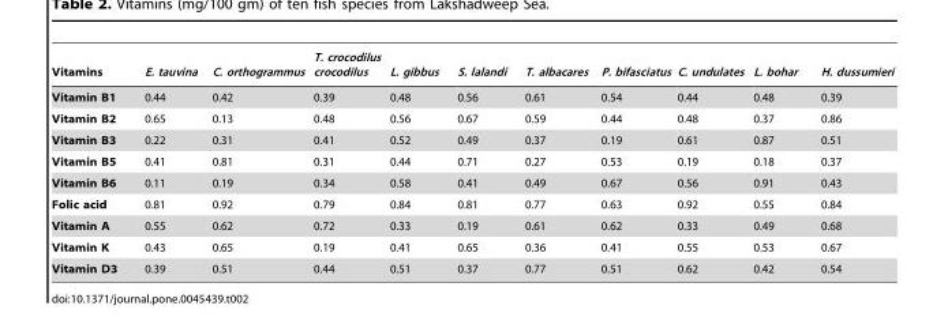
<table><thead><tr><td>Vitamins</td><td>E. tauvina</td><td>C. orthogrammus</td><td>T. crocodilus crocodilus</td><td>L. gibbus</td><td>S. lalandi</td><td>T. albacares</td><td>P. bifasciatus</td><td>C. undulates</td><td>L. bohar</td><td>H. dussumieri</td></tr></thead><tbody><tr><td>Vitamin B1</td><td>0.44</td><td>0.42</td><td>0.39</td><td>0.48</td><td>0.56</td><td>0.61</td><td>0.54</td><td>0.44</td><td>0.48</td><td>0.39</td></tr><tr><td>Vitamin B2</td><td>0.65</td><td>0.13</td><td>0.48</td><td>0.56</td><td>0.67</td><td>0.59</td><td>0.44</td><td>0.48</td><td>0.37</td><td>0.86</td></tr><tr><td>Vitamin B3</td><td>0.22</td><td>0.31</td><td>0.41</td><td>0.52</td><td>0.49</td><td>0.37</td><td>0.19</td><td>0.61</td><td>0.87</td><td>0.51</td></tr><tr><td>Vitamin B5</td><td>0.41</td><td>0.81</td><td>0.31</td><td>0.44</td><td>0.71</td><td>0.27</td><td>0.53</td><td>0.19</td><td>0.18</td><td>0.37</td></tr><tr><td>Vitamin B6</td><td>0.11</td><td>0.19</td><td>0.34</td><td>0.58</td><td>0.41</td><td>0.49</td><td>0.67</td><td>0.56</td><td>0.91</td><td>0.43</td></tr><tr><td>Folic acid</td><td>0.81</td><td>0.92</td><td>0.79</td><td>0.84</td><td>0.81</td><td>0.77</td><td>0.63</td><td>0.92</td><td>0.55</td><td>0.84</td></tr><tr><td>Vitamin A</td><td>0.55</td><td>0.62</td><td>0.72</td><td>0.33</td><td>0.19</td><td>0.61</td><td>0.62</td><td>0.33</td><td>0.49</td><td>0.68</td></tr><tr><td>Vitamin K</td><td>0.43</td><td>0.65</td><td>0.19</td><td>0.41</td><td>0.65</td><td>0.36</td><td>0.41</td><td>0.55</td><td>0.53</td><td>0.67</td></tr><tr><td>Vitamin D3</td><td>0.39</td><td>0.51</td><td>0.44</td><td>0.51</td><td>0.37</td><td>0.77</td><td>0.51</td><td>0.62</td><td>0.42</td><td>0.54</td></tr></tbody></table>